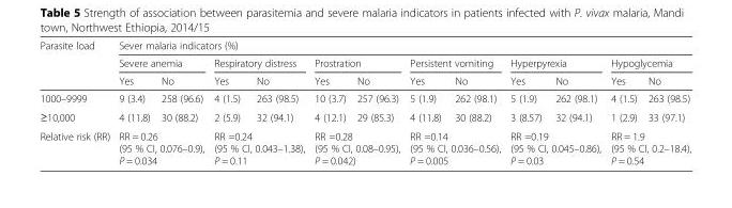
<table><thead><tr><td rowspan="3">Parasite load</td><td colspan="12">Sever malaria indicators (%)</td></tr><tr><td colspan="2">Severe anemia</td><td colspan="2">Respiratory distress</td><td colspan="2">Prostration</td><td colspan="2">Persistent vomiting</td><td colspan="2">Hyperpyrexia</td><td colspan="2">Hypoglycemia</td></tr><tr><td>Yes</td><td>No</td><td>Yes</td><td>No</td><td>Yes</td><td>No</td><td>Yes</td><td>No</td><td>Yes</td><td>No</td><td>Yes</td><td>No</td></tr></thead><tbody><tr><td>1000–9999</td><td>9 (3.4)</td><td>258 (96.6)</td><td>4 (1.5)</td><td>263 (98.5)</td><td>10 (3.7)</td><td>257 (96.3)</td><td>5 (1.9)</td><td>262 (98.1)</td><td>5 (1.9)</td><td>262 (98.1)</td><td>4 (1.5)</td><td>263 (98.5)</td></tr><tr><td>≥10,000</td><td>4 (11.8)</td><td>30 (88.2)</td><td>2 (5.9)</td><td>32 (94.1)</td><td>4 (12.1)</td><td>29 (85.3)</td><td>4 (11.8)</td><td>30 (88.2)</td><td>3 (8.57)</td><td>32 (94.1)</td><td>1 (2.9)</td><td>33 (97.1)</td></tr><tr><td>Relative risk (RR)</td><td colspan="2">RR = 0.26 (95 % CI, 0.076–0.9), P = 0.034</td><td colspan="2">RR =0.24 (95 % CI, 0.043–1.38), P = 0.11</td><td colspan="2">RR =0.28 (95 % CI, 0.08–0.95), P = 0.042)</td><td colspan="2">RR =0.14 (95 % CI, 0.036–0.56), P = 0.005</td><td colspan="2">RR =0.19 (95 % CI, 0.045–0.86), P = 0.03</td><td colspan="2">RR = 1.9 (95 % CI, 0.2–18.4), P = 0.54</td></tr></tbody></table>